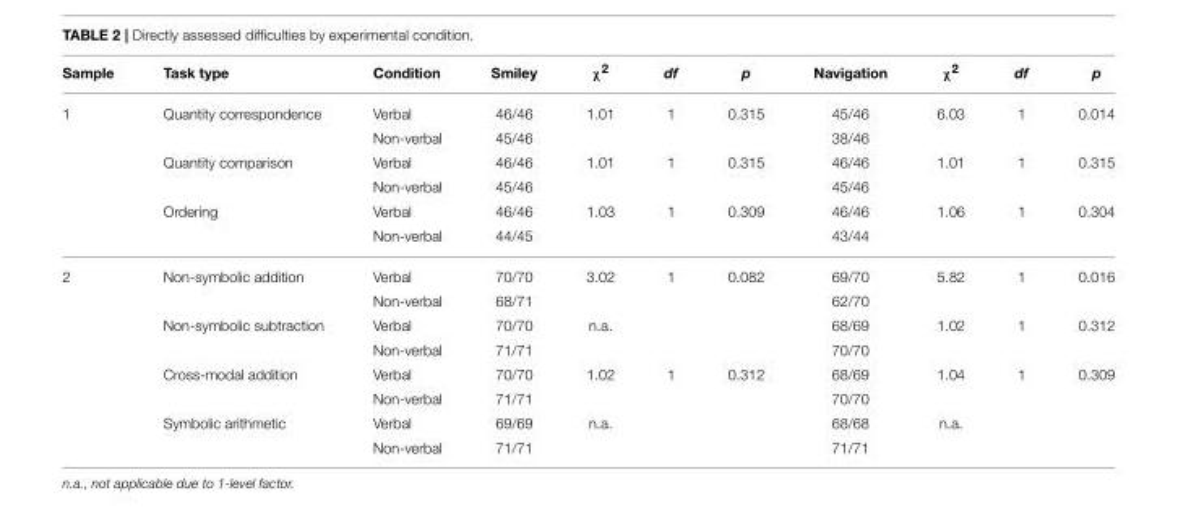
<table><thead><tr><td>Sample</td><td>Task type</td><td>Condition</td><td>Smiley</td><td>χ<sup>2</sup></td><td>df</td><td>p</td><td>Navigation</td><td>χ<sup>2</sup></td><td>df</td><td>p</td></tr></thead><tbody><tr><td rowspan="6">1</td><td>Quantity correspondence</td><td>Verbal</td><td>46/46</td><td>1.01</td><td>1</td><td>0.315</td><td>45/46</td><td>6.03</td><td>1</td><td>0.014</td></tr><tr><td></td><td>Non-verbal</td><td>45/46</td><td></td><td></td><td></td><td>38/46</td><td></td><td></td><td></td></tr><tr><td>Quantity comparison</td><td>Verbal</td><td>46/46</td><td>1.01</td><td>1</td><td>0.315</td><td>46/46</td><td>1.01</td><td>1</td><td>0.315</td></tr><tr><td></td><td>Non-verbal</td><td>45/46</td><td></td><td></td><td></td><td>45/46</td><td></td><td></td><td></td></tr><tr><td>Ordering</td><td>Verbal</td><td>46/46</td><td>1.03</td><td>1</td><td>0.309</td><td>46/46</td><td>1.06</td><td>1</td><td>0.304</td></tr><tr><td></td><td>Non-verbal</td><td>44/45</td><td></td><td></td><td></td><td>43/44</td><td></td><td></td><td></td></tr><tr><td rowspan="8">2</td><td>Non-symbolic addition</td><td>Verbal</td><td>70/70</td><td>3.02</td><td>1</td><td>0.082</td><td>69/70</td><td>5.82</td><td>1</td><td>0.016</td></tr><tr><td></td><td>Non-verbal</td><td>68/71</td><td></td><td></td><td></td><td>62/70</td><td></td><td></td><td></td></tr><tr><td>Non-symbolic subtraction</td><td>Verbal</td><td>70/70</td><td>n.a.</td><td></td><td></td><td>68/69</td><td>1.02</td><td>1</td><td>0.312</td></tr><tr><td></td><td>Non-verbal</td><td>71/71</td><td></td><td></td><td></td><td>70/70</td><td></td><td></td><td></td></tr><tr><td>Cross-modal addition</td><td>Verbal</td><td>70/70</td><td>1.02</td><td>1</td><td>0.312</td><td>68/69</td><td>1.04</td><td>1</td><td>0.309</td></tr><tr><td></td><td>Non-verbal</td><td>71/71</td><td></td><td></td><td></td><td>70/70</td><td></td><td></td><td></td></tr><tr><td>Symbolic arithmetic</td><td>Verbal</td><td>69/69</td><td>n.a.</td><td></td><td></td><td>68/68</td><td>n.a.</td><td></td><td></td></tr><tr><td></td><td>Non-verbal</td><td>71/71</td><td></td><td></td><td></td><td>71/71</td><td></td><td></td><td></td></tr></tbody></table>